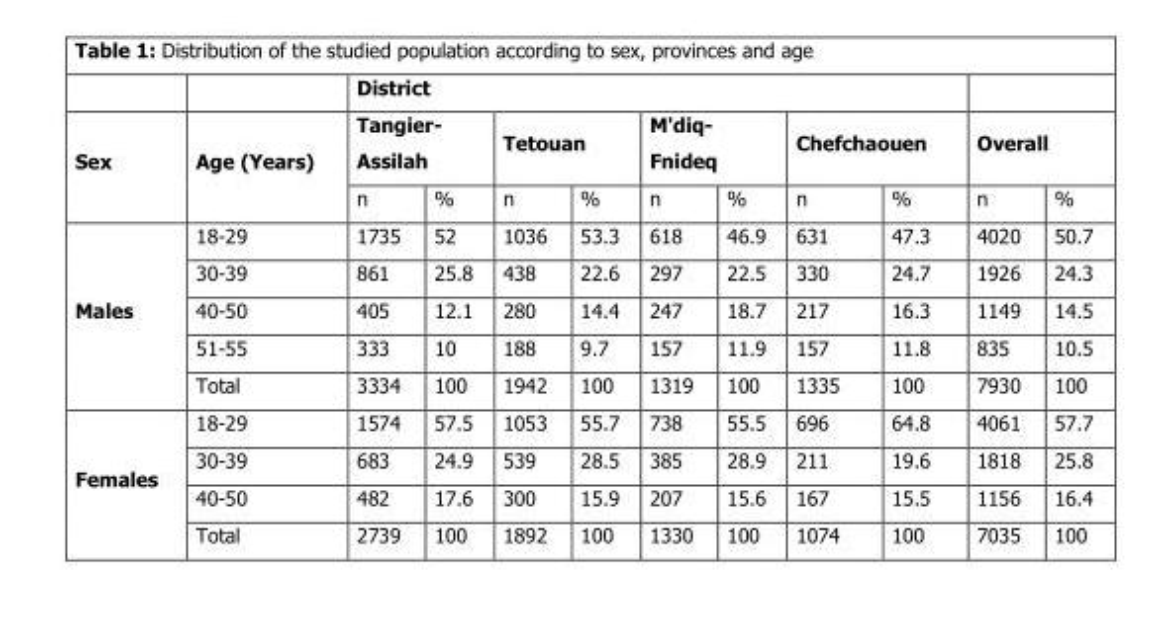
<table><thead><tr><td rowspan="3">Sex</td><td rowspan="3">Age (Years)</td><td colspan="8">District</td><td></td><td></td></tr><tr><td colspan="2">Tangier- Assilah</td><td colspan="2">Tetouan</td><td colspan="2">M&#x27;diq- Fnideq</td><td colspan="2">Chefchaouen</td><td colspan="2">Overall</td></tr><tr><td>n</td><td>%</td><td>n</td><td>%</td><td>n</td><td>%</td><td>n</td><td>%</td><td>n</td><td>%</td></tr></thead><tbody><tr><td rowspan="5">Males</td><td>18-29</td><td>1735</td><td>52</td><td>1036</td><td>53.3</td><td>618</td><td>46.9</td><td>631</td><td>47.3</td><td>4020</td><td>50.7</td></tr><tr><td>30-39</td><td>861</td><td>25.8</td><td>438</td><td>22.6</td><td>297</td><td>22.5</td><td>330</td><td>24.7</td><td>1926</td><td>24.3</td></tr><tr><td>40-50</td><td>405</td><td>12.1</td><td>280</td><td>14.4</td><td>247</td><td>18.7</td><td>217</td><td>16.3</td><td>1149</td><td>14.5</td></tr><tr><td>51-55</td><td>333</td><td>10</td><td>188</td><td>9.7</td><td>157</td><td>11.9</td><td>157</td><td>11.8</td><td>835</td><td>10.5</td></tr><tr><td>Total</td><td>3334</td><td>100</td><td>1942</td><td>100</td><td>1319</td><td>100</td><td>1335</td><td>100</td><td>7930</td><td>100</td></tr><tr><td rowspan="4">Females</td><td>18-29</td><td>1574</td><td>57.5</td><td>1053</td><td>55.7</td><td>738</td><td>55.5</td><td>696</td><td>64.8</td><td>4061</td><td>57.7</td></tr><tr><td>30-39</td><td>683</td><td>24.9</td><td>539</td><td>28.5</td><td>385</td><td>28.9</td><td>211</td><td>19.6</td><td>1818</td><td>25.8</td></tr><tr><td>40-50</td><td>482</td><td>17.6</td><td>300</td><td>15.9</td><td>207</td><td>15.6</td><td>167</td><td>15.5</td><td>1156</td><td>16.4</td></tr><tr><td>Total</td><td>2739</td><td>100</td><td>1892</td><td>100</td><td>1330</td><td>100</td><td>1074</td><td>100</td><td>7035</td><td>100</td></tr></tbody></table>